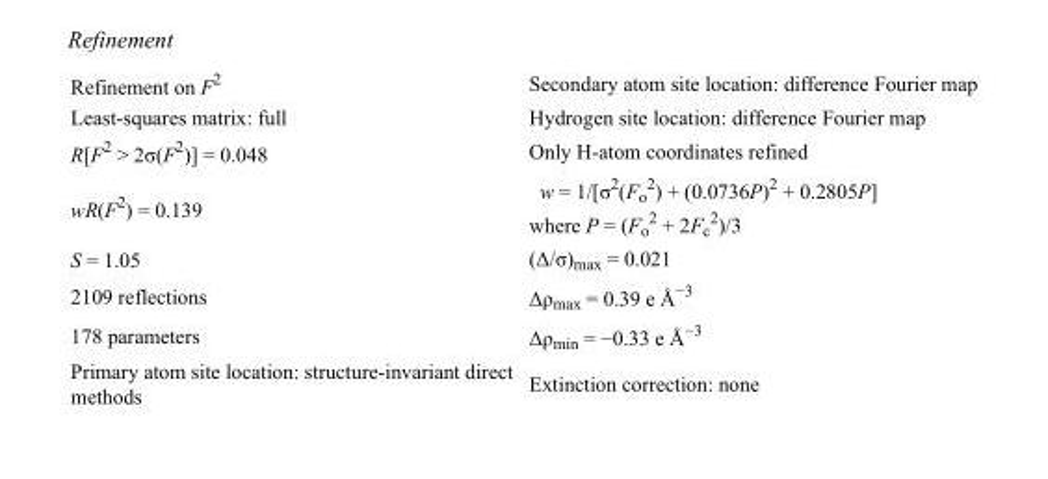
<table><tbody><tr><td>Refinement on F<sup>2</sup></td><td>Secondary atom site location: difference Fourier map</td></tr><tr><td>Least-squares matrix: full</td><td>Hydrogen site location: difference Fourier map</td></tr><tr><td>R[F<sup>2</sup> &gt; 2σ(F<sup>2</sup>)] = 0.048</td><td>Only H-atom coordinates refined</td></tr><tr><td>wR(F<sup>2</sup>) = 0.139</td><td>w = 1/[σ<sup>2</sup>(F<sub>o</sub> <sup>2</sup>) + (0.0736P)<sup>2</sup> + 0.2805P] where P = (F<sub>o</sub> <sup>2</sup> + 2F<sub>c</sub> <sup>2</sup>)/3</td></tr><tr><td>S = 1.05</td><td>(Δ/σ)<sub>max</sub> = 0.021</td></tr><tr><td>2109 reflections</td><td>Δρ<sub>max</sub> = 0.39 e Å<sup>−3</sup></td></tr><tr><td>178 parameters</td><td>Δρ<sub>min</sub> = −0.33 e Å<sup>−3</sup></td></tr><tr><td>Primary atom site location: structure-invariant direct methods</td><td>Extinction correction: none</td></tr></tbody></table>